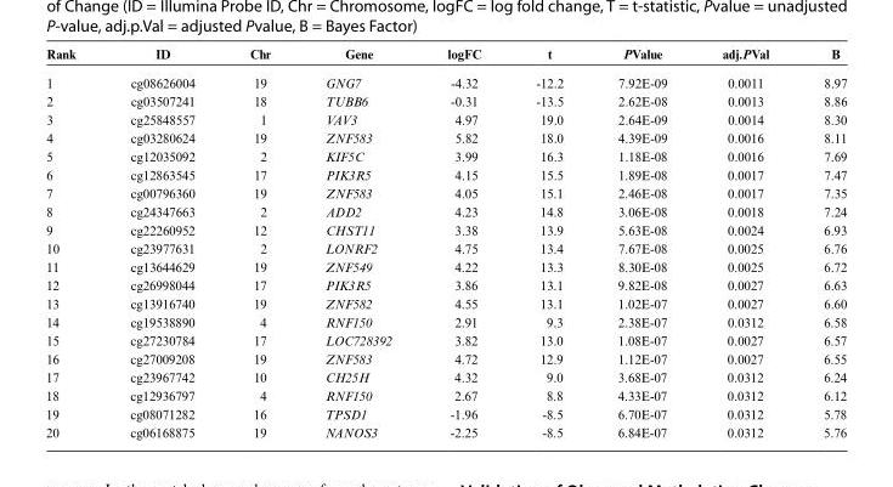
<table><thead><tr><td>Rank</td><td>ID</td><td>Chr</td><td>Gene</td><td>logFC</td><td>t</td><td>PValue</td><td>adj.PVal</td><td>B</td></tr></thead><tbody><tr><td>1</td><td>cg08626004</td><td>19</td><td>GNG7</td><td>-4.32</td><td>-12.2</td><td>7.92E-09</td><td>0.0011</td><td>8.97</td></tr><tr><td>2</td><td>cg03507241</td><td>18</td><td>TUBB6</td><td>-0.31</td><td>-13.5</td><td>2.62E-08</td><td>0.0013</td><td>8.86</td></tr><tr><td>3</td><td>cg25848557</td><td>1</td><td>VAV3</td><td>4.97</td><td>19.0</td><td>2.64E-09</td><td>0.0014</td><td>8.30</td></tr><tr><td>4</td><td>cg03280624</td><td>19</td><td>ZNF583</td><td>5.82</td><td>18.0</td><td>4.39E-09</td><td>0.0016</td><td>8.11</td></tr><tr><td>5</td><td>cg12035092</td><td>2</td><td>KIF5C</td><td>3.99</td><td>16.3</td><td>1.18E-08</td><td>0.0016</td><td>7.69</td></tr><tr><td>6</td><td>cg12863545</td><td>17</td><td>PIK3R5</td><td>4.15</td><td>15.5</td><td>1.89E-08</td><td>0.0017</td><td>7.47</td></tr><tr><td>7</td><td>cg00796360</td><td>19</td><td>ZNF583</td><td>4.05</td><td>15.1</td><td>2.46E-08</td><td>0.0017</td><td>7.35</td></tr><tr><td>8</td><td>cg24347663</td><td>2</td><td>ADD2</td><td>4.23</td><td>14.8</td><td>3.06E-08</td><td>0.0018</td><td>7.24</td></tr><tr><td>9</td><td>cg22260952</td><td>12</td><td>CHST11</td><td>3.38</td><td>13.9</td><td>5.63E-08</td><td>0.0024</td><td>6.93</td></tr><tr><td>10</td><td>cg23977631</td><td>2</td><td>LONRF2</td><td>4.75</td><td>13.4</td><td>7.67E-08</td><td>0.0025</td><td>6.76</td></tr><tr><td>11</td><td>cg13644629</td><td>19</td><td>ZNF549</td><td>4.22</td><td>13.3</td><td>8.30E-08</td><td>0.0025</td><td>6.72</td></tr><tr><td>12</td><td>cg26998044</td><td>17</td><td>PIK3R5</td><td>3.86</td><td>13.1</td><td>9.82E-08</td><td>0.0027</td><td>6.63</td></tr><tr><td>13</td><td>cg13916740</td><td>19</td><td>ZNF582</td><td>4.55</td><td>13.1</td><td>1.02E-07</td><td>0.0027</td><td>6.60</td></tr><tr><td>14</td><td>cg19538890</td><td>4</td><td>RNF150</td><td>2.91</td><td>9.3</td><td>2.38E-07</td><td>0.0312</td><td>6.58</td></tr><tr><td>15</td><td>cg27230784</td><td>17</td><td>LOC728392</td><td>3.82</td><td>13.0</td><td>1.08E-07</td><td>0.0027</td><td>6.57</td></tr><tr><td>16</td><td>cg27009208</td><td>19</td><td>ZNF583</td><td>4.72</td><td>12.9</td><td>1.12E-07</td><td>0.0027</td><td>6.55</td></tr><tr><td>17</td><td>cg23967742</td><td>10</td><td>CH25H</td><td>4.32</td><td>9.0</td><td>3.68E-07</td><td>0.0312</td><td>6.24</td></tr><tr><td>18</td><td>cg12936797</td><td>4</td><td>RNF150</td><td>2.67</td><td>8.8</td><td>4.33E-07</td><td>0.0312</td><td>6.12</td></tr><tr><td>19</td><td>cg08071282</td><td>16</td><td>TPSD1</td><td>-1.96</td><td>-8.5</td><td>6.70E-07</td><td>0.0312</td><td>5.78</td></tr><tr><td>20</td><td>cg06168875</td><td>19</td><td>NANOS3</td><td>-2.25</td><td>-8.5</td><td>6.84E-07</td><td>0.0312</td><td>5.76</td></tr></tbody></table>